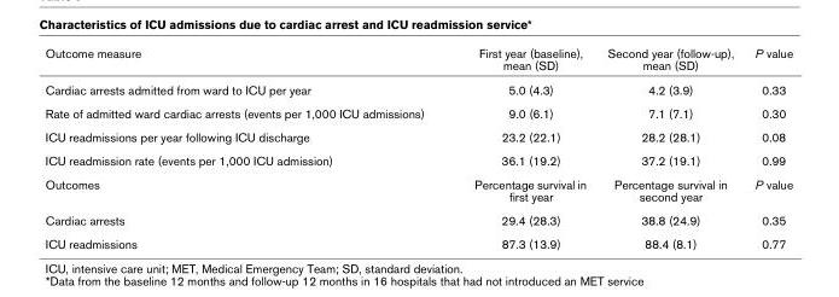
<table><thead><tr><td>Outcome measure</td><td>First year (baseline), mean (SD)</td><td>Second year (follow-up), mean (SD)</td><td>P value</td></tr></thead><tbody><tr><td>Cardiac arrests admitted from ward to ICU per year</td><td>5.0 (4.3)</td><td>4.2 (3.9)</td><td>0.33</td></tr><tr><td>Rate of admitted ward cardiac arrests (events per 1,000 ICU admissions)</td><td>9.0 (6.1)</td><td>7.1 (7.1)</td><td>0.30</td></tr><tr><td>ICU readmissions per year following ICU discharge</td><td>23.2 (22.1)</td><td>28.2 (28.1)</td><td>0.08</td></tr><tr><td>ICU readmission rate (events per 1,000 ICU admission)</td><td>36.1 (19.2)</td><td>37.2 (19.1)</td><td>0.99</td></tr><tr><td>Outcomes</td><td>Percentage survival in first year</td><td>Percentage survival in second year</td><td>P value</td></tr><tr><td>Cardiac arrests</td><td>29.4 (28.3)</td><td>38.8 (24.9)</td><td>0.35</td></tr><tr><td>ICU readmissions</td><td>87.3 (13.9)</td><td>88.4 (8.1)</td><td>0.77</td></tr></tbody></table>